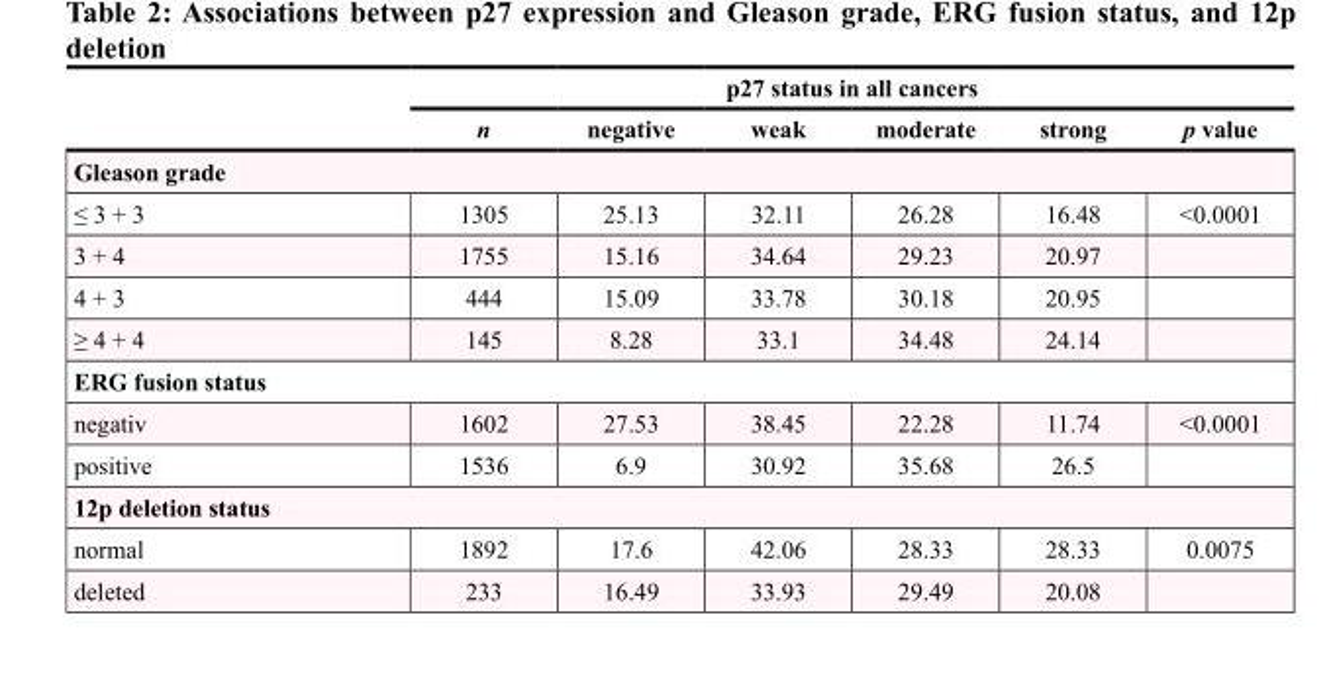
<table><thead><tr><td rowspan="2"></td><td colspan="6">p27 status in all cancers</td></tr><tr><td>n</td><td>negative</td><td>weak</td><td>moderate</td><td>strong</td><td>p value</td></tr></thead><tbody><tr><td colspan="7">Gleason grade</td></tr><tr><td>≤ 3 + 3</td><td>1305</td><td>25.13</td><td>32.11</td><td>26.28</td><td>16.48</td><td>&lt;0.0001</td></tr><tr><td>3 + 4</td><td>1755</td><td>15.16</td><td>34.64</td><td>29.23</td><td>20.97</td><td></td></tr><tr><td>4 + 3</td><td>444</td><td>15.09</td><td>33.78</td><td>30.18</td><td>20.95</td><td></td></tr><tr><td>≥ 4 + 4</td><td>145</td><td>8.28</td><td>33.1</td><td>34.48</td><td>24.14</td><td></td></tr><tr><td colspan="7">ERG fusion status</td></tr><tr><td>negativ</td><td>1602</td><td>27.53</td><td>38.45</td><td>22.28</td><td>11.74</td><td>&lt;0.0001</td></tr><tr><td>positive</td><td>1536</td><td>6.9</td><td>30.92</td><td>35.68</td><td>26.5</td><td></td></tr><tr><td colspan="7">12p deletion status</td></tr><tr><td>normal</td><td>1892</td><td>17.6</td><td>42.06</td><td>28.33</td><td>28.33</td><td>0.0075</td></tr><tr><td>deleted</td><td>233</td><td>16.49</td><td>33.93</td><td>29.49</td><td>20.08</td><td></td></tr></tbody></table>